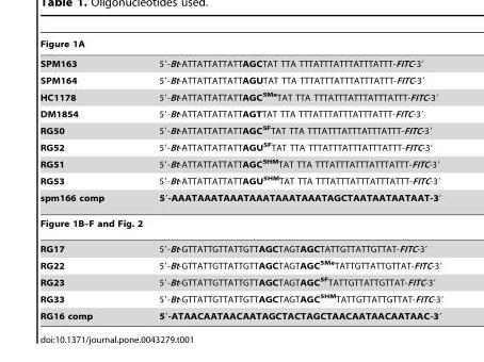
<table><thead><tr><td colspan="2">Figure 1A</td></tr><tr><td>SPM163</td><td>5′-Bt-ATTATTATTATTAGCTAT TTA TTTATTTATTTATTTATTT-FITC-3′</td></tr></thead><tbody><tr><td>SPM164</td><td>5′-Bt-ATTATTATTATTAGUTAT TTA TTTATTTATTTATTTATTT-FITC-3′</td></tr><tr><td>HC1178</td><td>5′-Bt-ATTATTATTATTAGC<sup>5Me</sup>TAT TTA TTTATTTATTTATTTATTT-FITC-3′</td></tr><tr><td>DM1854</td><td>5′-Bt-ATTATTATTATTAGTTAT TTA TTTATTTATTTATTTATTT-FITC-3′</td></tr><tr><td>RG50</td><td>5′-Bt-ATTATTATTATTAGC<sup>5F</sup>TAT TTA TTTATTTATTTATTTATTT-FITC-3′</td></tr><tr><td>RG52</td><td>5′-Bt-ATTATTATTATTAGU<sup>5F</sup>TAT TTA TTTATTTATTTATTTATTT-FITC-3′</td></tr><tr><td>RG51</td><td>5′-Bt-ATTATTATTATTAGC<sup>5HM</sup>TAT TTA TTTATTTATTTATTTATTT-FITC-3′</td></tr><tr><td>RG53</td><td>5′-Bt-ATTATTATTATTAGU<sup>5HM</sup>TAT TTA TTTATTTATTTATTTATTT-FITC-3′</td></tr><tr><td>spm166 comp</td><td>5′-AAATAAATAAATAAATAAATAAATAGCTAATAATAATAAT-3′</td></tr><tr><td colspan="2">Figure 1B–F and Fig. 2</td></tr><tr><td>RG17</td><td>5′-Bt-GTTATTGTTATTGTTAGCTAGTAGCTATTGTTATTGTTAT-FITC-3′</td></tr><tr><td>RG22</td><td>5′-Bt-GTTATTGTTATTGTTAGCTAGTAGC<sup>5Me</sup>TATTGTTATTGTTAT-FITC-3′</td></tr><tr><td>RG23</td><td>5′-Bt-GTTATTGTTATTGTTAGCTAGTAGC<sup>5F</sup>TATTGTTATTGTTAT-FITC-3′</td></tr><tr><td>RG33</td><td>5′-Bt-GTTATTGTTATTGTTAGCTAGTAGC<sup>5HM</sup>TATTGTTATTGTTAT-FITC-3′</td></tr><tr><td>RG16 comp</td><td>5′-ATAACAATAACAATAGCTACTAGCTAACAATAACAATAAC-3′</td></tr></tbody></table>